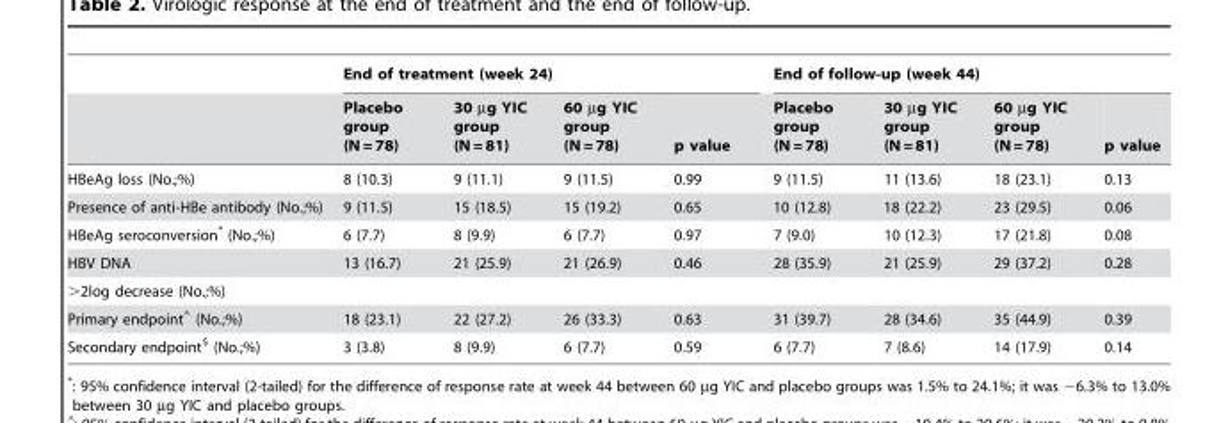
<table><thead><tr><td rowspan="2"></td><td colspan="4">End of treatment (week 24)</td><td colspan="4">End of follow-up (week 44)</td></tr><tr><td>Placebo group (N = 78)</td><td>30 µg YIC group (N = 81)</td><td>60 µg YIC group (N = 78)</td><td>p value</td><td>Placebo group (N = 78)</td><td>30 µg YIC group (N = 81)</td><td>60 µg YIC group (N = 78)</td><td>p value</td></tr></thead><tbody><tr><td>HBeAg loss (No.;%)</td><td>8 (10.3)</td><td>9 (11.1)</td><td>9 (11.5)</td><td>0.99</td><td>9 (11.5)</td><td>11 (13.6)</td><td>18 (23.1)</td><td>0.13</td></tr><tr><td>Presence of anti-HBe antibody (No.;%)</td><td>9 (11.5)</td><td>15 (18.5)</td><td>15 (19.2)</td><td>0.65</td><td>10 (12.8)</td><td>18 (22.2)</td><td>23 (29.5)</td><td>0.06</td></tr><tr><td>HBeAg seroconversion* (No.;%)</td><td>6 (7.7)</td><td>8 (9.9)</td><td>6 (7.7)</td><td>0.97</td><td>7 (9.0)</td><td>10 (12.3)</td><td>17 (21.8)</td><td>0.08</td></tr><tr><td>HBV DNA</td><td>13 (16.7)</td><td>21 (25.9)</td><td>21 (26.9)</td><td>0.46</td><td>28 (35.9)</td><td>21 (25.9)</td><td>29 (37.2)</td><td>0.28</td></tr><tr><td colspan="9">&gt;2log decrease (No.;%)</td></tr><tr><td>Primary endpoint^ (No.;%)</td><td>18 (23.1)</td><td>22 (27.2)</td><td>26 (33.3)</td><td>0.63</td><td>31 (39.7)</td><td>28 (34.6)</td><td>35 (44.9)</td><td>0.39</td></tr><tr><td>Secondary endpoint$ (No.;%)</td><td>3 (3.8)</td><td>8 (9.9)</td><td>6 (7.7)</td><td>0.59</td><td>6 (7.7)</td><td>7 (8.6)</td><td>14 (17.9)</td><td>0.14</td></tr></tbody></table>